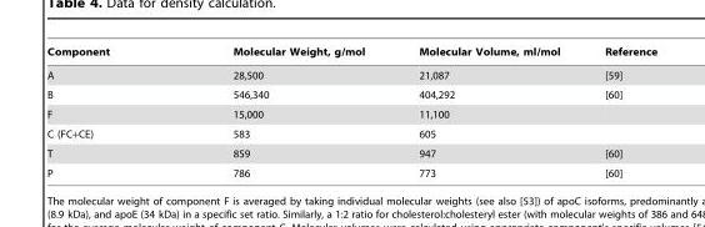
<table><thead><tr><td>Component</td><td>Molecular Weight, g/mol</td><td>Molecular Volume, ml/mol</td><td>Reference</td></tr></thead><tbody><tr><td>A</td><td>28,500</td><td>21,087</td><td>[59]</td></tr><tr><td>B</td><td>546,340</td><td>404,292</td><td>[60]</td></tr><tr><td>F</td><td>15,000</td><td>11,100</td><td></td></tr><tr><td>C (FC+CE)</td><td>583</td><td>605</td><td></td></tr><tr><td>T</td><td>859</td><td>947</td><td>[60]</td></tr><tr><td>P</td><td>786</td><td>773</td><td>[60]</td></tr></tbody></table>